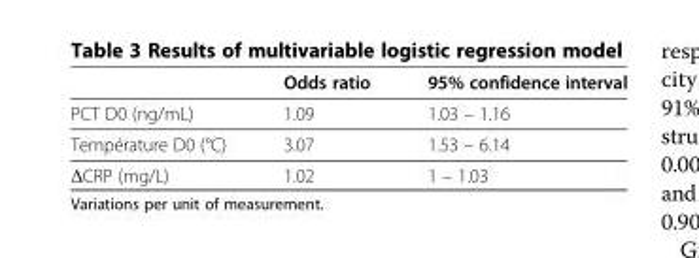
<table><thead><tr><td></td><td>Odds ratio</td><td>95% confidence interval</td></tr></thead><tbody><tr><td>PCT D0 (ng/mL)</td><td>1.09</td><td>1.03 – 1.16</td></tr><tr><td>Température D0 (°C)</td><td>3.07</td><td>1.53 – 6.14</td></tr><tr><td>ΔCRP (mg/L)</td><td>1.02</td><td>1 – 1.03</td></tr></tbody></table>